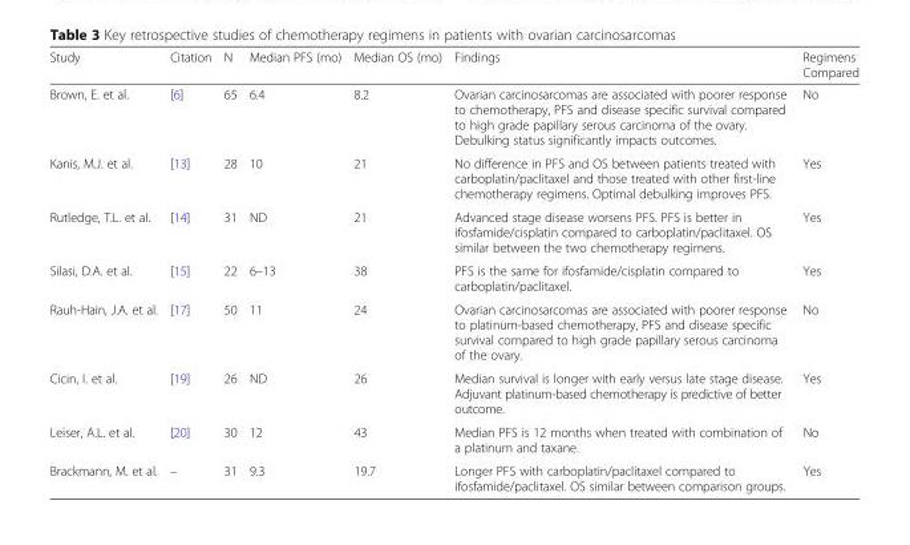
<table><thead><tr><td>Study</td><td>Citation</td><td>N</td><td>Median PFS (mo)</td><td>Median OS (mo)</td><td>Findings</td><td>Regimens Compared</td></tr></thead><tbody><tr><td>Brown, E. et al.</td><td>[6]</td><td>65</td><td>6.4</td><td>8.2</td><td>Ovarian carcinosarcomas are associated with poorer response to chemotherapy, PFS and disease specific survival compared to high grade papillary serous carcinoma of the ovary. Debulking status significantly impacts outcomes.</td><td>No</td></tr><tr><td>Kanis, M.J. et al.</td><td>[13]</td><td>28</td><td>10</td><td>21</td><td>No difference in PFS and OS between patients treated with carboplatin/paclitaxel and those treated with other first-line chemotherapy regimens. Optimal debulking improves PFS.</td><td>Yes</td></tr><tr><td>Rutledge, T.L. et al.</td><td>[14]</td><td>31</td><td>ND</td><td>21</td><td>Advanced stage disease worsens PFS. PFS is better in ifosfamide/cisplatin compared to carboplatin/paclitaxel. OS similar between the two chemotherapy regimens.</td><td>Yes</td></tr><tr><td>Silasi, D.A. et al.</td><td>[15]</td><td>22</td><td>6–13</td><td>38</td><td>PFS is the same for ifosfamide/cisplatin compared to carboplatin/paclitaxel.</td><td>Yes</td></tr><tr><td>Rauh-Hain, J.A. et al.</td><td>[17]</td><td>50</td><td>11</td><td>24</td><td>Ovarian carcinosarcomas are associated with poorer response to platinum-based chemotherapy, PFS and disease specific survival compared to high grade papillary serous carcinoma of the ovary.</td><td>No</td></tr><tr><td>Cicin, I. et al.</td><td>[19]</td><td>26</td><td>ND</td><td>26</td><td>Median survival is longer with early versus late stage disease. Adjuvant platinum-based chemotherapy is predictive of better outcome.</td><td>Yes</td></tr><tr><td>Leiser, A.L. et al.</td><td>[20]</td><td>30</td><td>12</td><td>43</td><td>Median PFS is 12 months when treated with combination of a platinum and taxane.</td><td>No</td></tr><tr><td>Brackmann, M. et al.</td><td>–</td><td>31</td><td>9.3</td><td>19.7</td><td>Longer PFS with carboplatin/paclitaxel compared to ifosfamide/paclitaxel. OS similar between comparison groups.</td><td>Yes</td></tr></tbody></table>